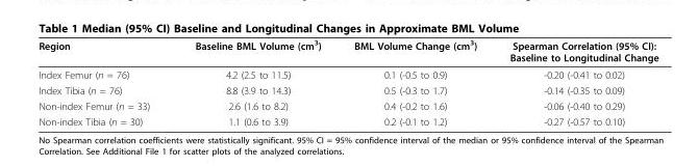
<table><thead><tr><td>Region</td><td>Baseline BML Volume (cm<sup>3</sup>)</td><td>BML Volume Change (cm<sup>3</sup>)</td><td>Spearman Correlation (95% CI): Baseline to Longitudinal Change</td></tr></thead><tbody><tr><td>Index Femur (n = 76)</td><td>4.2 (2.5 to 11.5)</td><td>0.1 (-0.5 to 0.9)</td><td>-0.20 (-0.41 to 0.02)</td></tr><tr><td>Index Tibia (n = 76)</td><td>8.8 (3.9 to 14.3)</td><td>0.5 (-0.3 to 1.7)</td><td>-0.14 (-0.35 to 0.09)</td></tr><tr><td>Non-index Femur (n = 33)</td><td>2.6 (1.6 to 8.2)</td><td>0.4 (-0.2 to 1.6)</td><td>-0.06 (-0.40 to 0.29)</td></tr><tr><td>Non-index Tibia (n = 30)</td><td>1.1 (0.6 to 3.9)</td><td>0.2 (-0.1 to 1.2)</td><td>-0.27 (-0.57 to 0.10)</td></tr></tbody></table>